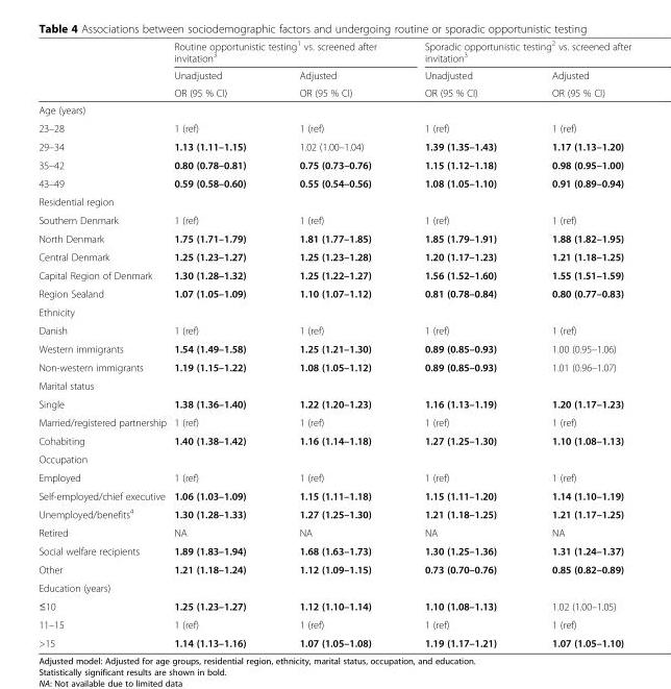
<table><thead><tr><td rowspan="3"></td><td colspan="2">Routine opportunistic testing<sup>1</sup> vs. screened after invitation<sup>3</sup></td><td colspan="2">Sporadic opportunistic testing<sup>2</sup> vs. screened after invitation<sup>3</sup></td></tr><tr><td rowspan="2">Unadjusted OR (95 % CI)</td><td rowspan="2">Adjusted OR (95 % CI)</td><td rowspan="2">Unadjusted OR (95 % CI)</td><td rowspan="2">Adjusted OR (95 % CI)</td></tr><tr></tr></thead><tbody><tr><td colspan="5">Age (years)</td></tr><tr><td>23–28</td><td>1 (ref)</td><td>1 (ref)</td><td>1 (ref)</td><td>1 (ref)</td></tr><tr><td>29–34</td><td>1.13 (1.11–1.15)</td><td>1.02 (1.00–1.04)</td><td>1.39 (1.35–1.43)</td><td>1.17 (1.13–1.20)</td></tr><tr><td>35–42</td><td>0.80 (0.78–0.81)</td><td>0.75 (0.73–0.76)</td><td>1.15 (1.12–1.18)</td><td>0.98 (0.95–1.00)</td></tr><tr><td>43–49</td><td>0.59 (0.58–0.60)</td><td>0.55 (0.54–0.56)</td><td>1.08 (1.05–1.10)</td><td>0.91 (0.89–0.94)</td></tr><tr><td colspan="5">Residential region</td></tr><tr><td>Southern Denmark</td><td>1 (ref)</td><td>1 (ref)</td><td>1 (ref)</td><td>1 (ref)</td></tr><tr><td>North Denmark</td><td>1.75 (1.71–1.79)</td><td>1.81 (1.77–1.85)</td><td>1.85 (1.79–1.91)</td><td>1.88 (1.82–1.95)</td></tr><tr><td>Central Denmark</td><td>1.25 (1.23–1.27)</td><td>1.25 (1.23–1.28)</td><td>1.20 (1.17–1.23)</td><td>1.21 (1.18–1.25)</td></tr><tr><td>Capital Region of Denmark</td><td>1.30 (1.28–1.32)</td><td>1.25 (1.22–1.27)</td><td>1.56 (1.52–1.60)</td><td>1.55 (1.51–1.59)</td></tr><tr><td>Region Sealand</td><td>1.07 (1.05–1.09)</td><td>1.10 (1.07–1.12)</td><td>0.81 (0.78–0.84)</td><td>0.80 (0.77–0.83)</td></tr><tr><td colspan="5">Ethnicity</td></tr><tr><td>Danish</td><td>1 (ref)</td><td>1 (ref)</td><td>1 (ref)</td><td>1 (ref)</td></tr><tr><td>Western immigrants</td><td>1.54 (1.49–1.58)</td><td>1.25 (1.21–1.30)</td><td>0.89 (0.85–0.93)</td><td>1.00 (0.95–1.06)</td></tr><tr><td>Non-western immigrants</td><td>1.19 (1.15–1.22)</td><td>1.08 (1.05–1.12)</td><td>0.89 (0.85–0.93)</td><td>1.01 (0.96–1.07)</td></tr><tr><td colspan="5">Marital status</td></tr><tr><td>Single</td><td>1.38 (1.36–1.40)</td><td>1.22 (1.20–1.23)</td><td>1.16 (1.13–1.19)</td><td>1.20 (1.17–1.23)</td></tr><tr><td>Married/registered partnership</td><td>1 (ref)</td><td>1 (ref)</td><td>1 (ref)</td><td>1 (ref)</td></tr><tr><td>Cohabiting</td><td>1.40 (1.38–1.42)</td><td>1.16 (1.14–1.18)</td><td>1.27 (1.25–1.30)</td><td>1.10 (1.08–1.13)</td></tr><tr><td colspan="5">Occupation</td></tr><tr><td>Employed</td><td>1 (ref)</td><td>1 (ref)</td><td>1 (ref)</td><td>1 (ref)</td></tr><tr><td>Self-employed/chief executive</td><td>1.06 (1.03–1.09)</td><td>1.15 (1.11–1.18)</td><td>1.15 (1.11–1.20)</td><td>1.14 (1.10–1.19)</td></tr><tr><td>Unemployed/benefits<sup>4</sup></td><td>1.30 (1.28–1.33)</td><td>1.27 (1.25–1.30)</td><td>1.21 (1.18–1.25)</td><td>1.21 (1.17–1.25)</td></tr><tr><td>Retired</td><td>NA</td><td>NA</td><td>NA</td><td>NA</td></tr><tr><td>Social welfare recipients</td><td>1.89 (1.83–1.94)</td><td>1.68 (1.63–1.73)</td><td>1.30 (1.25–1.36)</td><td>1.31 (1.24–1.37)</td></tr><tr><td>Other</td><td>1.21 (1.18–1.24)</td><td>1.12 (1.09–1.15)</td><td>0.73 (0.70–0.76)</td><td>0.85 (0.82–0.89)</td></tr><tr><td colspan="5">Education (years)</td></tr><tr><td>≤10</td><td>1.25 (1.23–1.27)</td><td>1.12 (1.10–1.14)</td><td>1.10 (1.08–1.13)</td><td>1.02 (1.00–1.05)</td></tr><tr><td>11–15</td><td>1 (ref)</td><td>1 (ref)</td><td>1 (ref)</td><td>1 (ref)</td></tr><tr><td>&gt;15</td><td>1.14 (1.13–1.16)</td><td>1.07 (1.05–1.08)</td><td>1.19 (1.17–1.21)</td><td>1.07 (1.05–1.10)</td></tr></tbody></table>